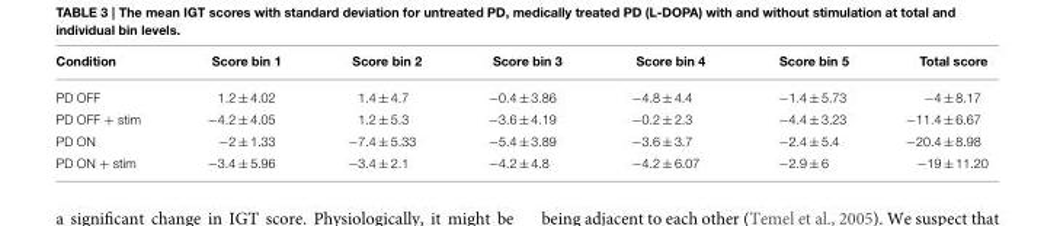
<table><thead><tr><td>Condition</td><td>Score bin 1</td><td>Score bin 2</td><td>Score bin 3</td><td>Score bin 4</td><td>Score bin 5</td><td>Total score</td></tr></thead><tbody><tr><td>PD OFF</td><td>1.2 ± 4.02</td><td>1.4 ± 4.7</td><td>−0.4 ± 3.86</td><td>−4.8 ± 4.4</td><td>−1.4 ± 5.73</td><td>−4 ± 8.17</td></tr><tr><td>PD OFF + stim</td><td>−4.2 ± 4.05</td><td>1.2 ± 5.3</td><td>−3.6 ± 4.19</td><td>−0.2 ± 2.3</td><td>−4.4 ± 3.23</td><td>−11.4 ± 6.67</td></tr><tr><td>PD ON</td><td>−2 ± 1.33</td><td>−7.4 ± 5.33</td><td>−5.4 ± 3.89</td><td>−3.6 ± 3.7</td><td>−2.4 ± 5.4</td><td>−20.4 ± 8.98</td></tr><tr><td>PD ON + stim</td><td>−3.4 ± 5.96</td><td>−3.4 ± 2.1</td><td>−4.2 ± 4.8</td><td>−4.2 ± 6.07</td><td>−2.9 ± 6</td><td>−19 ± 11.20</td></tr></tbody></table>